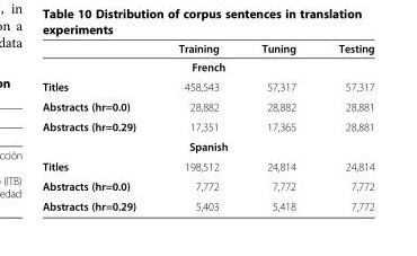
<table><thead><tr><td></td><td>Training</td><td>Tuning</td><td>Testing</td></tr></thead><tbody><tr><td colspan="4">French</td></tr><tr><td>Titles</td><td>458,543</td><td>57,317</td><td>57,317</td></tr><tr><td>Abstracts (hr=0.0)</td><td>28,882</td><td>28,882</td><td>28,881</td></tr><tr><td>Abstracts (hr=0.29)</td><td>17,351</td><td>17,365</td><td>28,881</td></tr><tr><td colspan="4">Spanish</td></tr><tr><td>Titles</td><td>198,512</td><td>24,814</td><td>24,814</td></tr><tr><td>Abstracts (hr=0.0)</td><td>7,772</td><td>7,772</td><td>7,772</td></tr><tr><td>Abstracts (hr=0.29)</td><td>5,403</td><td>5,418</td><td>7,772</td></tr></tbody></table>